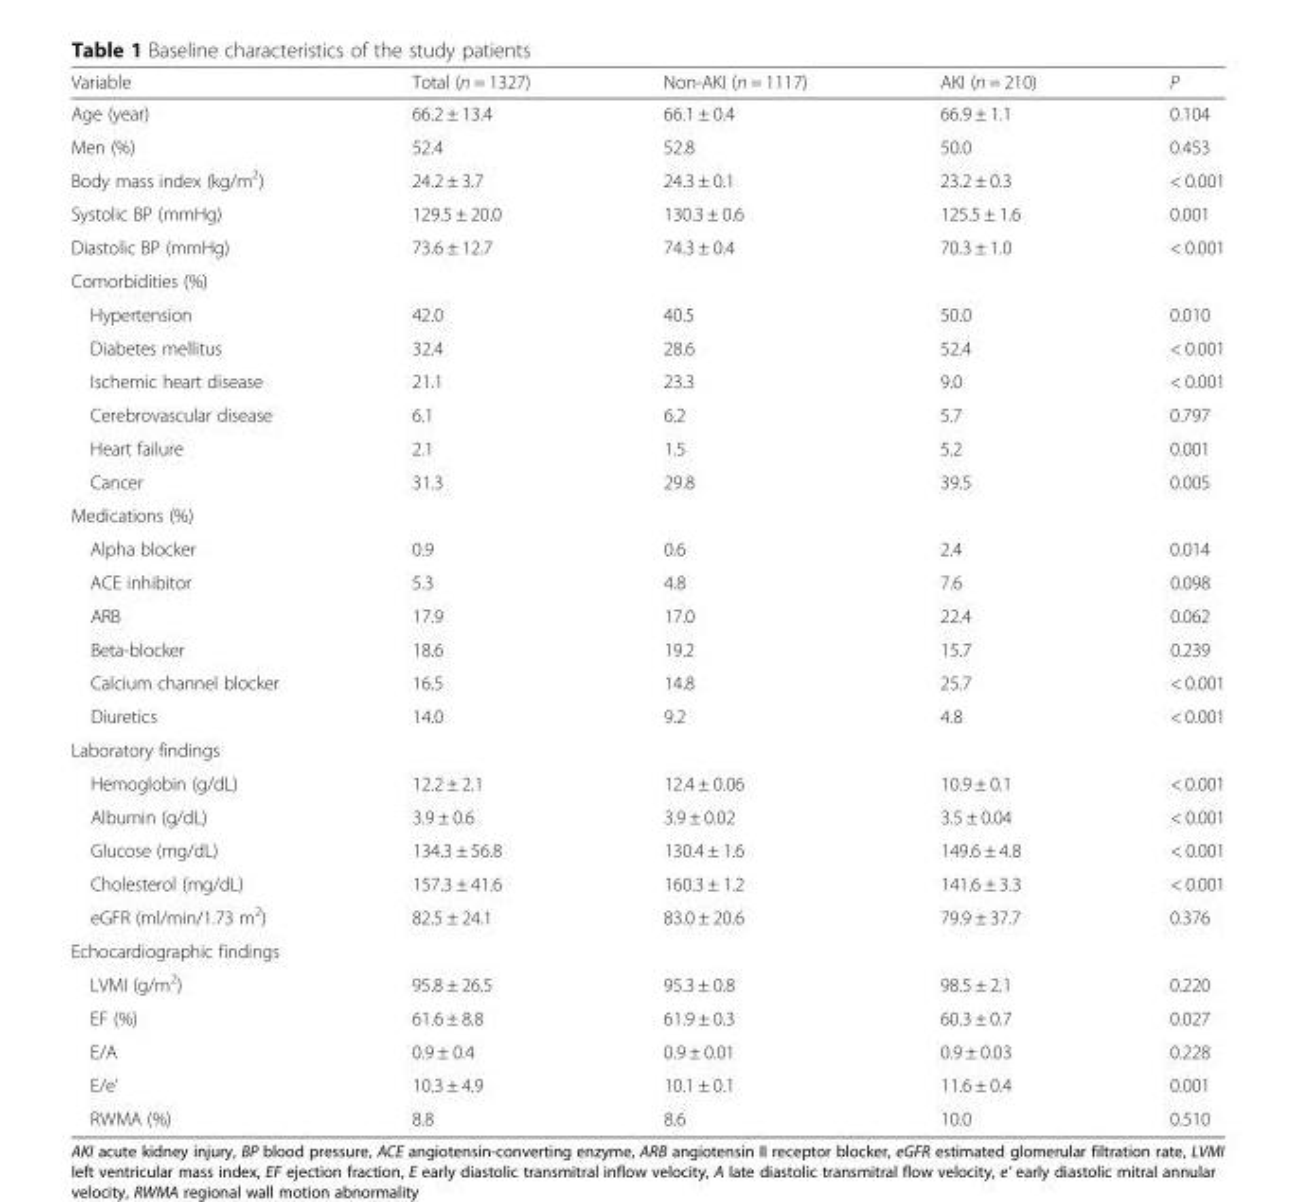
<table><thead><tr><td>Variable</td><td>Total (n = 1327)</td><td>Non-AKI (n = 1117)</td><td>AKI (n = 210)</td><td>P</td></tr></thead><tbody><tr><td>Age (year)</td><td>66.2 ± 13.4</td><td>66.1 ± 0.4</td><td>66.9 ± 1.1</td><td>0.104</td></tr><tr><td>Men (%)</td><td>52.4</td><td>52.8</td><td>50.0</td><td>0.453</td></tr><tr><td>Body mass index (kg/m<sup>2</sup>)</td><td>24.2 ± 3.7</td><td>24.3 ± 0.1</td><td>23.2 ± 0.3</td><td>&lt; 0.001</td></tr><tr><td>Systolic BP (mmHg)</td><td>129.5 ± 20.0</td><td>130.3 ± 0.6</td><td>125.5 ± 1.6</td><td>0.001</td></tr><tr><td>Diastolic BP (mmHg)</td><td>73.6 ± 12.7</td><td>74.3 ± 0.4</td><td>70.3 ± 1.0</td><td>&lt; 0.001</td></tr><tr><td colspan="5">Comorbidities (%)</td></tr><tr><td>Hypertension</td><td>42.0</td><td>40.5</td><td>50.0</td><td>0.010</td></tr><tr><td>Diabetes mellitus</td><td>32.4</td><td>28.6</td><td>52.4</td><td>&lt; 0.001</td></tr><tr><td>Ischemic heart disease</td><td>21.1</td><td>23.3</td><td>9.0</td><td>&lt; 0.001</td></tr><tr><td>Cerebrovascular disease</td><td>6.1</td><td>6.2</td><td>5.7</td><td>0.797</td></tr><tr><td>Heart failure</td><td>2.1</td><td>1.5</td><td>5.2</td><td>0.001</td></tr><tr><td>Cancer</td><td>31.3</td><td>29.8</td><td>39.5</td><td>0.005</td></tr><tr><td colspan="5">Medications (%)</td></tr><tr><td>Alpha blocker</td><td>0.9</td><td>0.6</td><td>2.4</td><td>0.014</td></tr><tr><td>ACE inhibitor</td><td>5.3</td><td>4.8</td><td>7.6</td><td>0.098</td></tr><tr><td>ARB</td><td>17.9</td><td>17.0</td><td>22.4</td><td>0.062</td></tr><tr><td>Beta-blocker</td><td>18.6</td><td>19.2</td><td>15.7</td><td>0.239</td></tr><tr><td>Calcium channel blocker</td><td>16.5</td><td>14.8</td><td>25.7</td><td>&lt; 0.001</td></tr><tr><td>Diuretics</td><td>14.0</td><td>9.2</td><td>4.8</td><td>&lt; 0.001</td></tr><tr><td colspan="5">Laboratory findings</td></tr><tr><td>Hemoglobin (g/dL)</td><td>12.2 ± 2.1</td><td>12.4 ± 0.06</td><td>10.9 ± 0.1</td><td>&lt; 0.001</td></tr><tr><td>Albumin (g/dL)</td><td>3.9 ± 0.6</td><td>3.9 ± 0.02</td><td>3.5 ± 0.04</td><td>&lt; 0.001</td></tr><tr><td>Glucose (mg/dL)</td><td>134.3 ± 56.8</td><td>130.4 ± 1.6</td><td>149.6 ± 4.8</td><td>&lt; 0.001</td></tr><tr><td>Cholesterol (mg/dL)</td><td>157.3 ± 41.6</td><td>160.3 ± 1.2</td><td>141.6 ± 3.3</td><td>&lt; 0.001</td></tr><tr><td>eGFR (ml/min/1.73 m<sup>2</sup>)</td><td>82.5 ± 24.1</td><td>83.0 ± 20.6</td><td>79.9 ± 37.7</td><td>0.376</td></tr><tr><td colspan="5">Echocardiographic findings</td></tr><tr><td>LVMI (g/m<sup>2</sup>)</td><td>95.8 ± 26.5</td><td>95.3 ± 0.8</td><td>98.5 ± 2.1</td><td>0.220</td></tr><tr><td>EF (%)</td><td>61.6 ± 8.8</td><td>61.9 ± 0.3</td><td>60.3 ± 0.7</td><td>0.027</td></tr><tr><td>E/A</td><td>0.9 ± 0.4</td><td>0.9 ± 0.01</td><td>0.9 ± 0.03</td><td>0.228</td></tr><tr><td>E/e’</td><td>10.3 ± 4.9</td><td>10.1 ± 0.1</td><td>11.6 ± 0.4</td><td>0.001</td></tr><tr><td>RWMA (%)</td><td>8.8</td><td>8.6</td><td>10.0</td><td>0.510</td></tr></tbody></table>